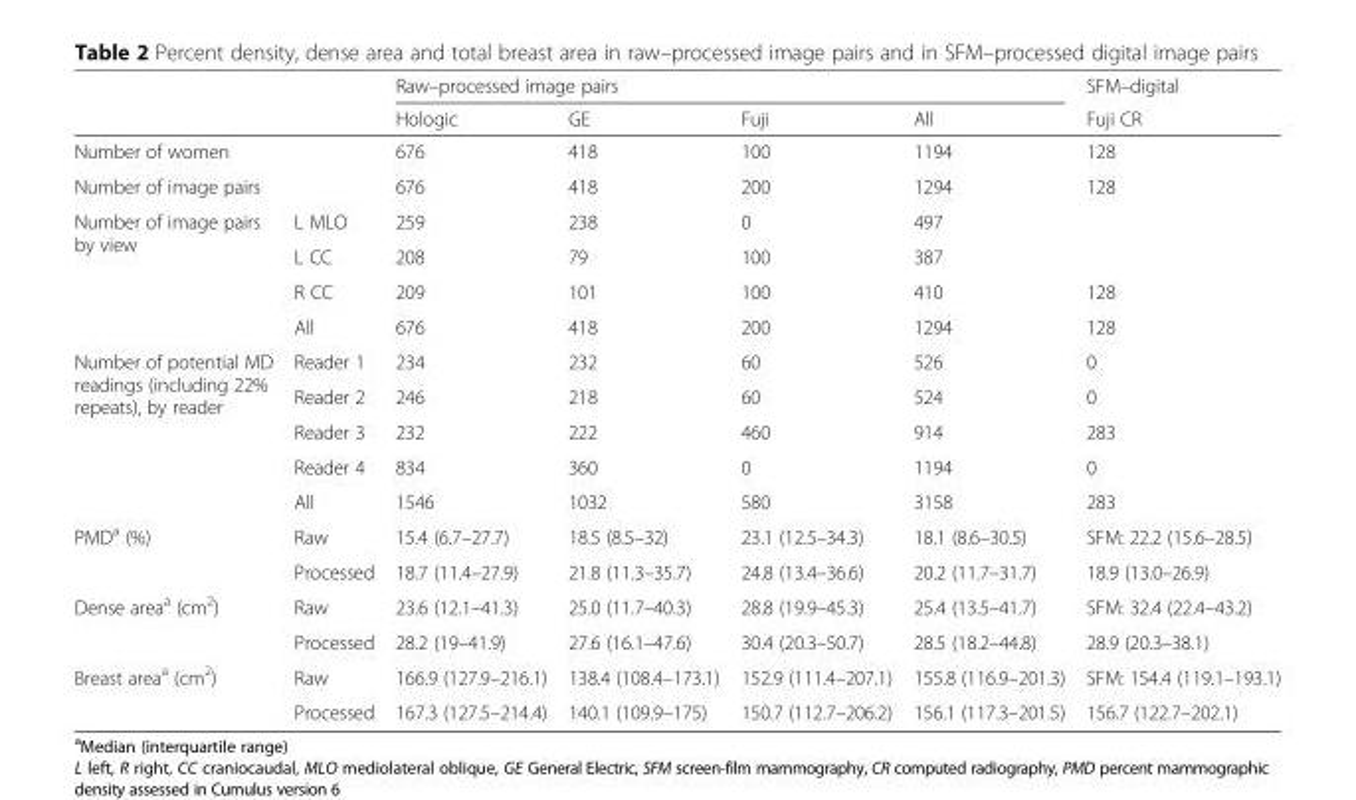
<table><thead><tr><td rowspan="2"></td><td rowspan="2"></td><td colspan="4">Raw–processed image pairs</td><td rowspan="2">SFM–digital Fuji CR</td></tr><tr><td>Hologic</td><td>GE</td><td>Fuji</td><td>All</td></tr></thead><tbody><tr><td>Number of women</td><td></td><td>676</td><td>418</td><td>100</td><td>1194</td><td>128</td></tr><tr><td>Number of image pairs</td><td></td><td>676</td><td>418</td><td>200</td><td>1294</td><td>128</td></tr><tr><td rowspan="4">Number of image pairs by view</td><td>L MLO</td><td>259</td><td>238</td><td>0</td><td>497</td><td></td></tr><tr><td>L CC</td><td>208</td><td>79</td><td>100</td><td>387</td><td></td></tr><tr><td>R CC</td><td>209</td><td>101</td><td>100</td><td>410</td><td>128</td></tr><tr><td>All</td><td>676</td><td>418</td><td>200</td><td>1294</td><td>128</td></tr><tr><td rowspan="5">Number of potential MD readings (including 22% repeats), by reader</td><td>Reader 1</td><td>234</td><td>232</td><td>60</td><td>526</td><td>0</td></tr><tr><td>Reader 2</td><td>246</td><td>218</td><td>60</td><td>524</td><td>0</td></tr><tr><td>Reader 3</td><td>232</td><td>222</td><td>460</td><td>914</td><td>283</td></tr><tr><td>Reader 4</td><td>834</td><td>360</td><td>0</td><td>1194</td><td>0</td></tr><tr><td>All</td><td>1546</td><td>1032</td><td>580</td><td>3158</td><td>283</td></tr><tr><td rowspan="2">PMD<sup>a</sup> (%)</td><td>Raw</td><td>15.4 (6.7–27.7)</td><td>18.5 (8.5–32)</td><td>23.1 (12.5–34.3)</td><td>18.1 (8.6–30.5)</td><td>SFM: 22.2 (15.6–28.5)</td></tr><tr><td>Processed</td><td>18.7 (11.4–27.9)</td><td>21.8 (11.3–35.7)</td><td>24.8 (13.4–36.6)</td><td>20.2 (11.7–31.7)</td><td>18.9 (13.0–26.9)</td></tr><tr><td rowspan="2">Dense area<sup>a</sup> (cm<sup>2</sup>)</td><td>Raw</td><td>23.6 (12.1–41.3)</td><td>25.0 (11.7–40.3)</td><td>28.8 (19.9–45.3)</td><td>25.4 (13.5–41.7)</td><td>SFM: 32.4 (22.4–43.2)</td></tr><tr><td>Processed</td><td>28.2 (19–41.9)</td><td>27.6 (16.1–47.6)</td><td>30.4 (20.3–50.7)</td><td>28.5 (18.2–44.8)</td><td>28.9 (20.3–38.1)</td></tr><tr><td rowspan="2">Breast area<sup>a</sup> (cm<sup>2</sup>)</td><td>Raw</td><td>166.9 (127.9–216.1)</td><td>138.4 (108.4–173.1)</td><td>152.9 (111.4–207.1)</td><td>155.8 (116.9–201.3)</td><td>SFM: 154.4 (119.1–193.1)</td></tr><tr><td>Processed</td><td>167.3 (127.5–214.4)</td><td>140.1 (109.9–175)</td><td>150.7 (112.7–206.2)</td><td>156.1 (117.3–201.5)</td><td>156.7 (122.7–202.1)</td></tr></tbody></table>